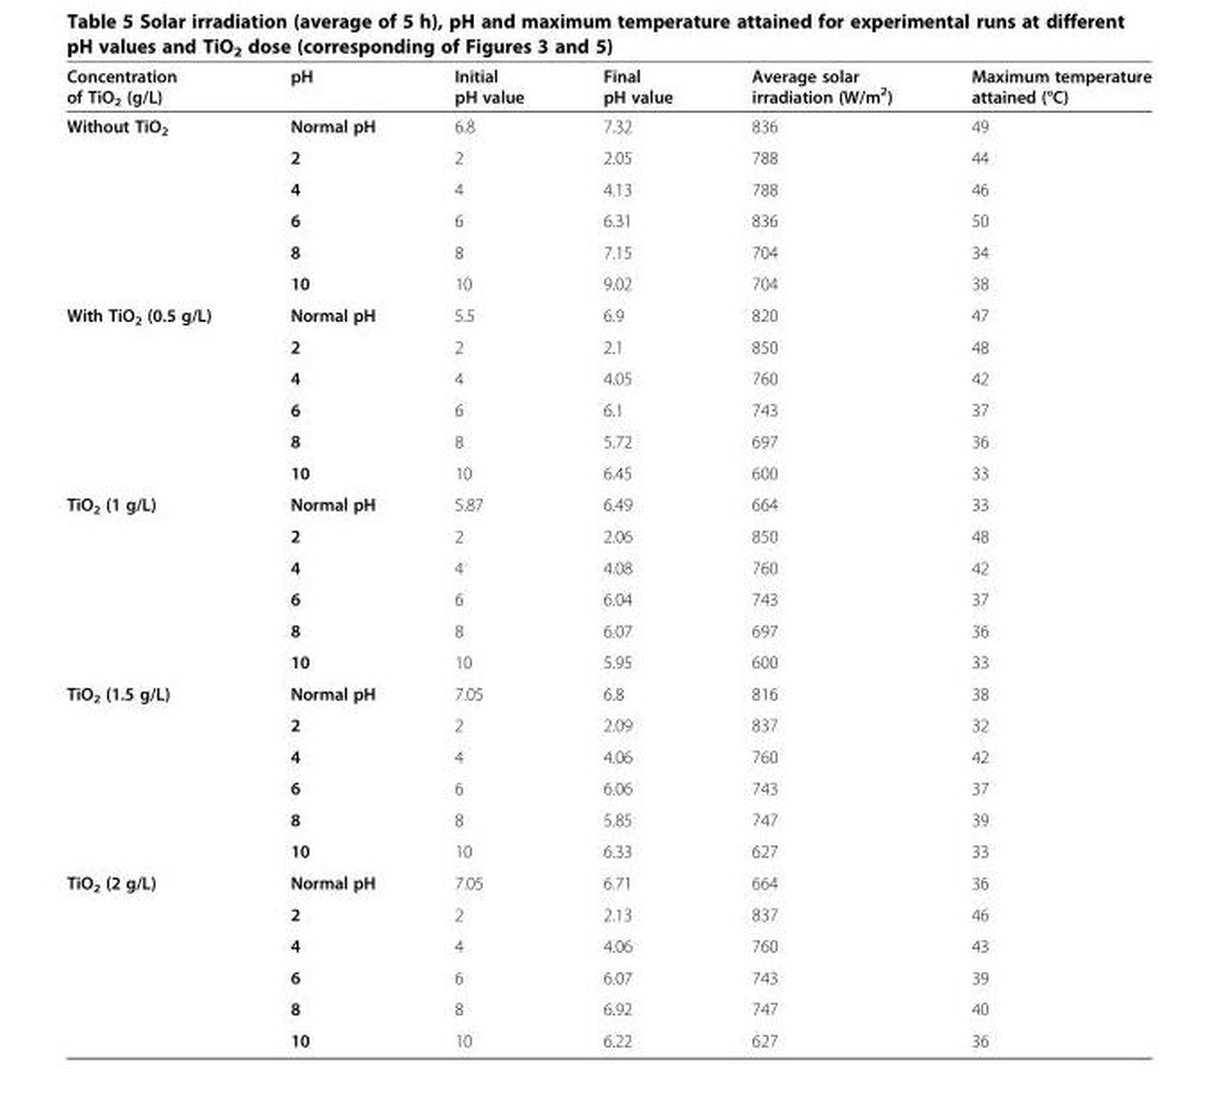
<table><thead><tr><td>Concentration of TiO<sub>2</sub> (g/L)</td><td>pH</td><td>Initial pH value</td><td>Final pH value</td><td>Average solar irradiation (W/m<sup>2</sup>)</td><td>Maximum temperature attained (°C)</td></tr></thead><tbody><tr><td rowspan="6">Without TiO<sub>2</sub></td><td>Normal pH</td><td>6.8</td><td>7.32</td><td>836</td><td>49</td></tr><tr><td>2</td><td>2</td><td>2.05</td><td>788</td><td>44</td></tr><tr><td>4</td><td>4</td><td>4.13</td><td>788</td><td>46</td></tr><tr><td>6</td><td>6</td><td>6.31</td><td>836</td><td>50</td></tr><tr><td>8</td><td>8</td><td>7.15</td><td>704</td><td>34</td></tr><tr><td>10</td><td>10</td><td>9.02</td><td>704</td><td>38</td></tr><tr><td rowspan="6">With TiO<sub>2</sub> (0.5 g/L)</td><td>Normal pH</td><td>5.5</td><td>6.9</td><td>820</td><td>47</td></tr><tr><td>2</td><td>2</td><td>2.1</td><td>850</td><td>48</td></tr><tr><td>4</td><td>4</td><td>4.05</td><td>760</td><td>42</td></tr><tr><td>6</td><td>6</td><td>6.1</td><td>743</td><td>37</td></tr><tr><td>8</td><td>8</td><td>5.72</td><td>697</td><td>36</td></tr><tr><td>10</td><td>10</td><td>6.45</td><td>600</td><td>33</td></tr><tr><td rowspan="6">TiO<sub>2</sub> (1 g/L)</td><td>Normal pH</td><td>5.87</td><td>6.49</td><td>664</td><td>33</td></tr><tr><td>2</td><td>2</td><td>2.06</td><td>850</td><td>48</td></tr><tr><td>4</td><td>4</td><td>4.08</td><td>760</td><td>42</td></tr><tr><td>6</td><td>6</td><td>6.04</td><td>743</td><td>37</td></tr><tr><td>8</td><td>8</td><td>6.07</td><td>697</td><td>36</td></tr><tr><td>10</td><td>10</td><td>5.95</td><td>600</td><td>33</td></tr><tr><td rowspan="6">TiO<sub>2</sub> (1.5 g/L)</td><td>Normal pH</td><td>7.05</td><td>6.8</td><td>816</td><td>38</td></tr><tr><td>2</td><td>2</td><td>2.09</td><td>837</td><td>32</td></tr><tr><td>4</td><td>4</td><td>4.06</td><td>760</td><td>42</td></tr><tr><td>6</td><td>6</td><td>6.06</td><td>743</td><td>37</td></tr><tr><td>8</td><td>8</td><td>5.85</td><td>747</td><td>39</td></tr><tr><td>10</td><td>10</td><td>6.33</td><td>627</td><td>33</td></tr><tr><td rowspan="6">TiO<sub>2</sub> (2 g/L)</td><td>Normal pH</td><td>7.05</td><td>6.71</td><td>664</td><td>36</td></tr><tr><td>2</td><td>2</td><td>2.13</td><td>837</td><td>46</td></tr><tr><td>4</td><td>4</td><td>4.06</td><td>760</td><td>43</td></tr><tr><td>6</td><td>6</td><td>6.07</td><td>743</td><td>39</td></tr><tr><td>8</td><td>8</td><td>6.92</td><td>747</td><td>40</td></tr><tr><td>10</td><td>10</td><td>6.22</td><td>627</td><td>36</td></tr></tbody></table>